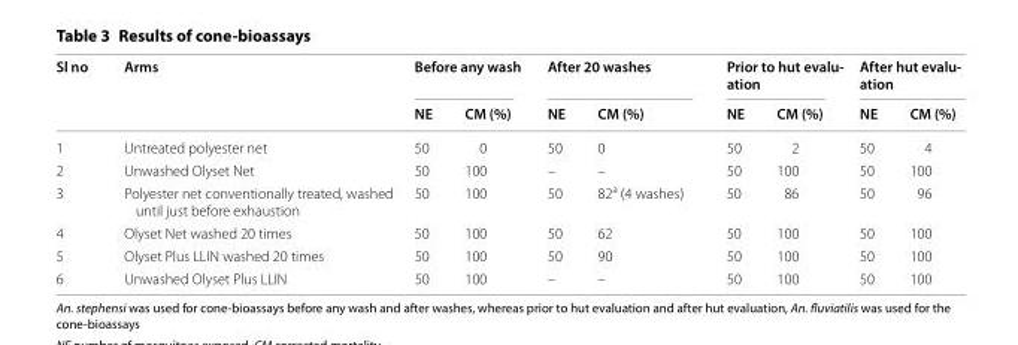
<table><thead><tr><td rowspan="2">Sl no</td><td rowspan="2">Arms</td><td colspan="2">Before any wash</td><td colspan="2">After 20 washes</td><td colspan="2">Prior to hut evalu‑ ation</td><td colspan="2">After hut evalu‑ ation</td></tr><tr><td>NE</td><td>CM (%)</td><td>NE</td><td>CM (%)</td><td>NE</td><td>CM (%)</td><td>NE</td><td>CM (%)</td></tr></thead><tbody><tr><td>1</td><td>Untreated polyester net</td><td>50</td><td>0</td><td>50</td><td>0</td><td>50</td><td>2</td><td>50</td><td>4</td></tr><tr><td>2</td><td>Unwashed Olyset Net</td><td>50</td><td>100</td><td>–</td><td>–</td><td>50</td><td>100</td><td>50</td><td>100</td></tr><tr><td>3</td><td>Polyester net conventionally treated, washed until just before exhaustion</td><td>50</td><td>100</td><td>50</td><td>82<sup>a</sup> (4 washes)</td><td>50</td><td>86</td><td>50</td><td>96</td></tr><tr><td>4</td><td>Olyset Net washed 20 times</td><td>50</td><td>100</td><td>50</td><td>62</td><td>50</td><td>100</td><td>50</td><td>100</td></tr><tr><td>5</td><td>Olyset Plus LLIN washed 20 times</td><td>50</td><td>100</td><td>50</td><td>90</td><td>50</td><td>100</td><td>50</td><td>100</td></tr><tr><td>6</td><td>Unwashed Olyset Plus LLIN</td><td>50</td><td>100</td><td>–</td><td>–</td><td>50</td><td>100</td><td>50</td><td>100</td></tr></tbody></table>